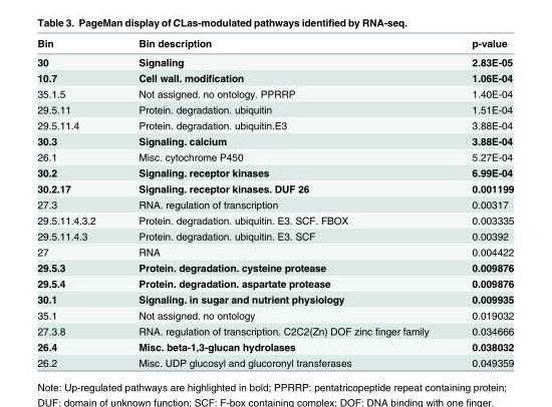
<table><thead><tr><td>Bin</td><td>Bin description</td><td>p-value</td></tr></thead><tbody><tr><td>30</td><td>Signaling</td><td>2.83E-05</td></tr><tr><td>10.7</td><td>Cell wall. modification</td><td>1.06E-04</td></tr><tr><td>35.1.5</td><td>Not assigned. no ontology. PPRRP</td><td>1.40E-04</td></tr><tr><td>29.5.11</td><td>Protein. degradation. ubiquitin</td><td>1.51E-04</td></tr><tr><td>29.5.11.4</td><td>Protein. degradation. ubiquitin.E3</td><td>3.88E-04</td></tr><tr><td>30.3</td><td>Signaling. calcium</td><td>3.88E-04</td></tr><tr><td>26.1</td><td>Misc. cytochrome P450</td><td>5.27E-04</td></tr><tr><td>30.2</td><td>Signaling. receptor kinases</td><td>6.99E-04</td></tr><tr><td>30.2.17</td><td>Signaling. receptor kinases. DUF 26</td><td>0.001199</td></tr><tr><td>27.3</td><td>RNA. regulation of transcription</td><td>0.00317</td></tr><tr><td>29.5.11.4.3.2</td><td>Protein. degradation. ubiquitin. E3. SCF. FBOX</td><td>0.003335</td></tr><tr><td>29.5.11.4.3</td><td>Protein. degradation. ubiquitin. E3. SCF</td><td>0.00392</td></tr><tr><td>27</td><td>RNA</td><td>0.004422</td></tr><tr><td>29.5.3</td><td>Protein. degradation. cysteine protease</td><td>0.009876</td></tr><tr><td>29.5.4</td><td>Protein. degradation. aspartate protease</td><td>0.009876</td></tr><tr><td>30.1</td><td>Signaling. in sugar and nutrient physiology</td><td>0.009935</td></tr><tr><td>35.1</td><td>Not assigned. no ontology</td><td>0.019032</td></tr><tr><td>27.3.8</td><td>RNA. regulation of transcription. C2C2(Zn) DOF zinc finger family</td><td>0.034666</td></tr><tr><td>26.4</td><td>Misc. beta-1,3-glucan hydrolases</td><td>0.038032</td></tr><tr><td>26.2</td><td>Misc. UDP glucosyl and glucoronyl transferases</td><td>0.049359</td></tr></tbody></table>